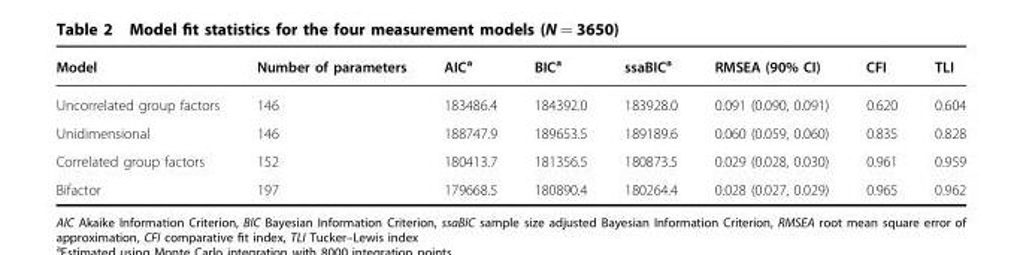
<table><thead><tr><td>Model</td><td>Number of parameters</td><td>AIC<sup>a</sup></td><td>BIC<sup>a</sup></td><td>ssaBIC<sup>a</sup></td><td>RMSEA (90% CI)</td><td>CFI</td><td>TLI</td></tr></thead><tbody><tr><td>Uncorrelated group factors</td><td>146</td><td>183486.4</td><td>184392.0</td><td>183928.0</td><td>0.091 (0.090, 0.091)</td><td>0.620</td><td>0.604</td></tr><tr><td>Unidimensional</td><td>146</td><td>188747.9</td><td>189653.5</td><td>189189.6</td><td>0.060 (0.059, 0.060)</td><td>0.835</td><td>0.828</td></tr><tr><td>Correlated group factors</td><td>152</td><td>180413.7</td><td>181356.5</td><td>180873.5</td><td>0.029 (0.028, 0.030)</td><td>0.961</td><td>0.959</td></tr><tr><td>Bifactor</td><td>197</td><td>179668.5</td><td>180890.4</td><td>180264.4</td><td>0.028 (0.027, 0.029)</td><td>0.965</td><td>0.962</td></tr></tbody></table>